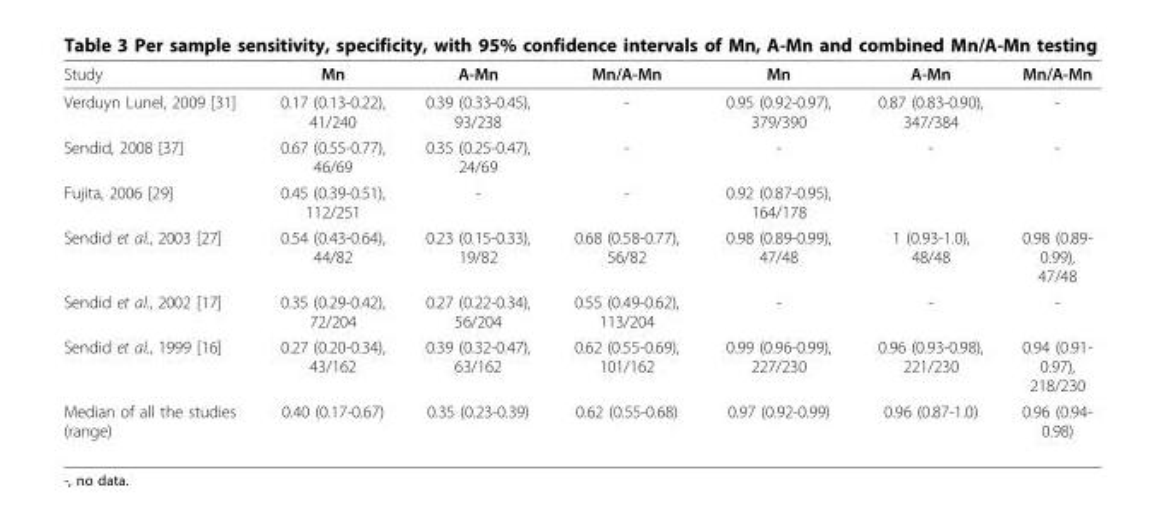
<table><thead><tr><td>Study</td><td>Mn</td><td>A-Mn</td><td>Mn/A-Mn</td><td>Mn</td><td>A-Mn</td><td>Mn/A-Mn</td></tr></thead><tbody><tr><td>Verduyn Lunel, 2009 [31]</td><td>0.17 (0.13-0.22), 41/240</td><td>0.39 (0.33-0.45), 93/238</td><td>-</td><td>0.95 (0.92-0.97), 379/390</td><td>0.87 (0.83-0.90), 347/384</td><td>-</td></tr><tr><td>Sendid, 2008 [37]</td><td>0.67 (0.55-0.77), 46/69</td><td>0.35 (0.25-0.47), 24/69</td><td>-</td><td>-</td><td>-</td><td>-</td></tr><tr><td>Fujita, 2006 [29]</td><td>0.45 (0.39-0.51), 112/251</td><td>-</td><td>-</td><td>0.92 (0.87-0.95), 164/178</td><td></td><td></td></tr><tr><td>Sendid et al., 2003 [27]</td><td>0.54 (0.43-0.64), 44/82</td><td>0.23 (0.15-0.33), 19/82</td><td>0.68 (0.58-0.77), 56/82</td><td>0.98 (0.89-0.99), 47/48</td><td>1 (0.93-1.0), 48/48</td><td>0.98 (0.89- 0.99), 47/48</td></tr><tr><td>Sendid et al., 2002 [17]</td><td>0.35 (0.29-0.42), 72/204</td><td>0.27 (0.22-0.34), 56/204</td><td>0.55 (0.49-0.62), 113/204</td><td>-</td><td>-</td><td>-</td></tr><tr><td>Sendid et al., 1999 [16]</td><td>0.27 (0.20-0.34), 43/162</td><td>0.39 (0.32-0.47), 63/162</td><td>0.62 (0.55-0.69), 101/162</td><td>0.99 (0.96-0.99), 227/230</td><td>0.96 (0.93-0.98), 221/230</td><td>0.94 (0.91- 0.97), 218/230</td></tr><tr><td>Median of all the studies (range)</td><td>0.40 (0.17-0.67)</td><td>0.35 (0.23-0.39)</td><td>0.62 (0.55-0.68)</td><td>0.97 (0.92-0.99)</td><td>0.96 (0.87-1.0)</td><td>0.96 (0.94- 0.98)</td></tr></tbody></table>